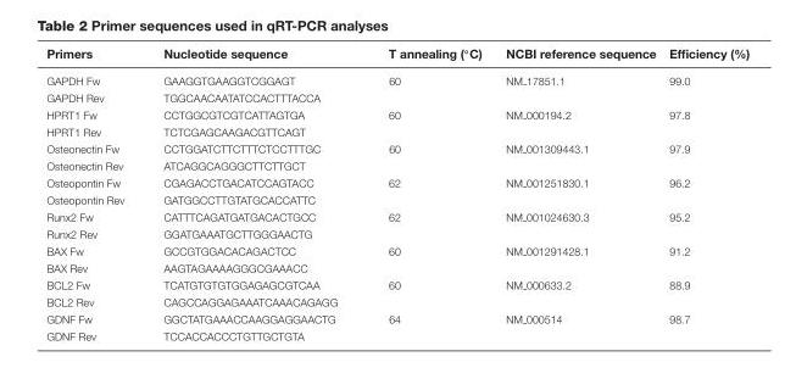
<table><thead><tr><td>Primers</td><td>Nucleotide sequence</td><td>T annealing (◦C)</td><td>NCBI reference sequence</td><td>Efficiency (%)</td></tr></thead><tbody><tr><td>GAPDH Fw</td><td>GAAGGTGAAGGTCGGAGT</td><td>60</td><td>NM 17851.1</td><td>99.0</td></tr><tr><td>GAPDH Rev</td><td>TGGCAACAATATCCACTTTACCA</td><td></td><td></td><td></td></tr><tr><td>HPRT1 Fw</td><td>CCTGGCGTCGTCATTAGTGA</td><td>60</td><td>NM 000194.2</td><td>97.8</td></tr><tr><td>HPRT1 Rev</td><td>TCTCGAGCAAGACGTTCAGT</td><td></td><td></td><td></td></tr><tr><td>Osteonectin Fw</td><td>CCTGGATCTTCTTTCTCCTTTGC</td><td>60</td><td>NM 001309443.1</td><td>97.9</td></tr><tr><td>Osteonectin Rev</td><td>ATCAGGCAGGGCTTCTTGCT</td><td></td><td></td><td></td></tr><tr><td>Osteopontin Fw</td><td>CGAGACCTGACATCCAGTACC</td><td>62</td><td>NM 001251830.1</td><td>96.2</td></tr><tr><td>Osteopontin Rev</td><td>GATGGCCTTGTATGCACCATTC</td><td></td><td></td><td></td></tr><tr><td>Runx2 Fw</td><td>CATTTCAGATGATGACACTGCC</td><td>62</td><td>NM 001024630.3</td><td>95.2</td></tr><tr><td>Runx2 Rev</td><td>GGATGAAATGCTTGGGAACTG</td><td></td><td></td><td></td></tr><tr><td>BAX Fw</td><td>GCCGTGGACACAGACTCC</td><td>60</td><td>NM 001291428.1</td><td>91.2</td></tr><tr><td>BAX Rev</td><td>AAGTAGAAAAGGGCGAAACC</td><td></td><td></td><td></td></tr><tr><td>BCL2 Fw</td><td>TCATGTGTGTGGAGAGCGTCAA</td><td>60</td><td>NM 000633.2</td><td>88.9</td></tr><tr><td>BCL2 Rev</td><td>CAGCCAGGAGAAATCAAACAGAGG</td><td></td><td></td><td></td></tr><tr><td>GDNF Fw</td><td>GGCTATGAAACCAAGGAGGAACTG</td><td>64</td><td>NM 000514</td><td>98.7</td></tr><tr><td>GDNF Rev</td><td>TCCACCACCCTGTTGCTGTA</td><td></td><td></td><td></td></tr></tbody></table>